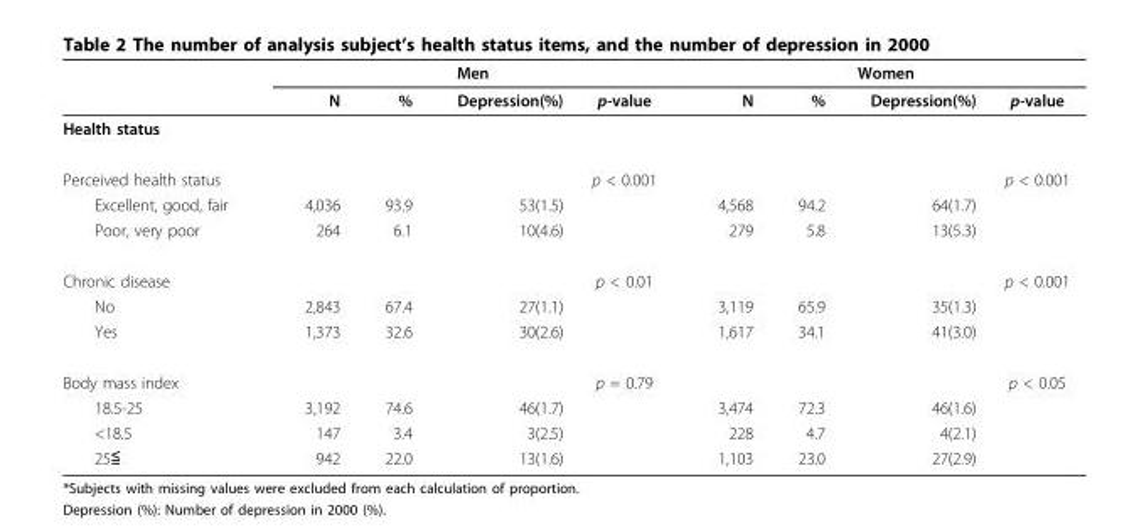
<table><thead><tr><td rowspan="2"></td><td colspan="4">Men</td><td colspan="4">Women</td></tr><tr><td>N</td><td>%</td><td>Depression(%)</td><td>p-value</td><td>N</td><td>%</td><td>Depression(%)</td><td>p-value</td></tr></thead><tbody><tr><td colspan="9">Health status</td></tr><tr><td>Perceived health status</td><td></td><td></td><td></td><td>p &lt; 0.001</td><td></td><td></td><td></td><td>p &lt; 0.001</td></tr><tr><td>Excellent, good, fair</td><td>4,036</td><td>93.9</td><td>53(1.5)</td><td></td><td>4,568</td><td>94.2</td><td>64(1.7)</td><td></td></tr><tr><td>Poor, very poor</td><td>264</td><td>6.1</td><td>10(4.6)</td><td></td><td>279</td><td>5.8</td><td>13(5.3)</td><td></td></tr><tr><td>Chronic disease</td><td></td><td></td><td></td><td>p &lt; 0.01</td><td></td><td></td><td></td><td>p &lt; 0.001</td></tr><tr><td>No</td><td>2,843</td><td>67.4</td><td>27(1.1)</td><td></td><td>3,119</td><td>65.9</td><td>35(1.3)</td><td></td></tr><tr><td>Yes</td><td>1,373</td><td>32.6</td><td>30(2.6)</td><td></td><td>1,617</td><td>34.1</td><td>41(3.0)</td><td></td></tr><tr><td>Body mass index</td><td></td><td></td><td></td><td>p = 0.79</td><td></td><td></td><td></td><td>p &lt; 0.05</td></tr><tr><td>18.5-25</td><td>3,192</td><td>74.6</td><td>46(1.7)</td><td></td><td>3,474</td><td>72.3</td><td>46(1.6)</td><td></td></tr><tr><td>&lt;18.5</td><td>147</td><td>3.4</td><td>3(2.5)</td><td></td><td>228</td><td>4.7</td><td>4(2.1)</td><td></td></tr><tr><td>25≦</td><td>942</td><td>22.0</td><td>13(1.6)</td><td></td><td>1,103</td><td>23.0</td><td>27(2.9)</td><td></td></tr></tbody></table>